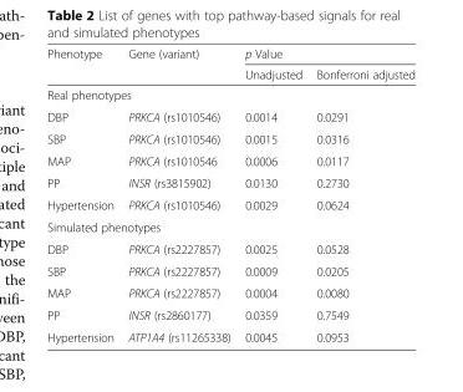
<table><thead><tr><td rowspan="2">Phenotype</td><td rowspan="2">Gene (variant)</td><td colspan="2">p Value</td></tr><tr><td>Unadjusted</td><td>Bonferroni adjusted</td></tr></thead><tbody><tr><td colspan="4">Real phenotypes</td></tr><tr><td>DBP</td><td>PRKCA (rs1010546)</td><td>0.0014</td><td>0.0291</td></tr><tr><td>SBP</td><td>PRKCA (rs1010546)</td><td>0.0015</td><td>0.0316</td></tr><tr><td>MAP</td><td>PRKCA (rs1010546</td><td>0.0006</td><td>0.0117</td></tr><tr><td>PP</td><td>INSR (rs3815902)</td><td>0.0130</td><td>0.2730</td></tr><tr><td>Hypertension</td><td>PRKCA (rs1010546)</td><td>0.0029</td><td>0.0624</td></tr><tr><td colspan="4">Simulated phenotypes</td></tr><tr><td>DBP</td><td>PRKCA (rs2227857)</td><td>0.0025</td><td>0.0528</td></tr><tr><td>SBP</td><td>PRKCA (rs2227857)</td><td>0.0009</td><td>0.0205</td></tr><tr><td>MAP</td><td>PRKCA (rs2227857)</td><td>0.0004</td><td>0.0080</td></tr><tr><td>PP</td><td>INSR (rs2860177)</td><td>0.0359</td><td>0.7549</td></tr><tr><td>Hypertension</td><td>ATP1A4 (rs11265338)</td><td>0.0045</td><td>0.0953</td></tr></tbody></table>